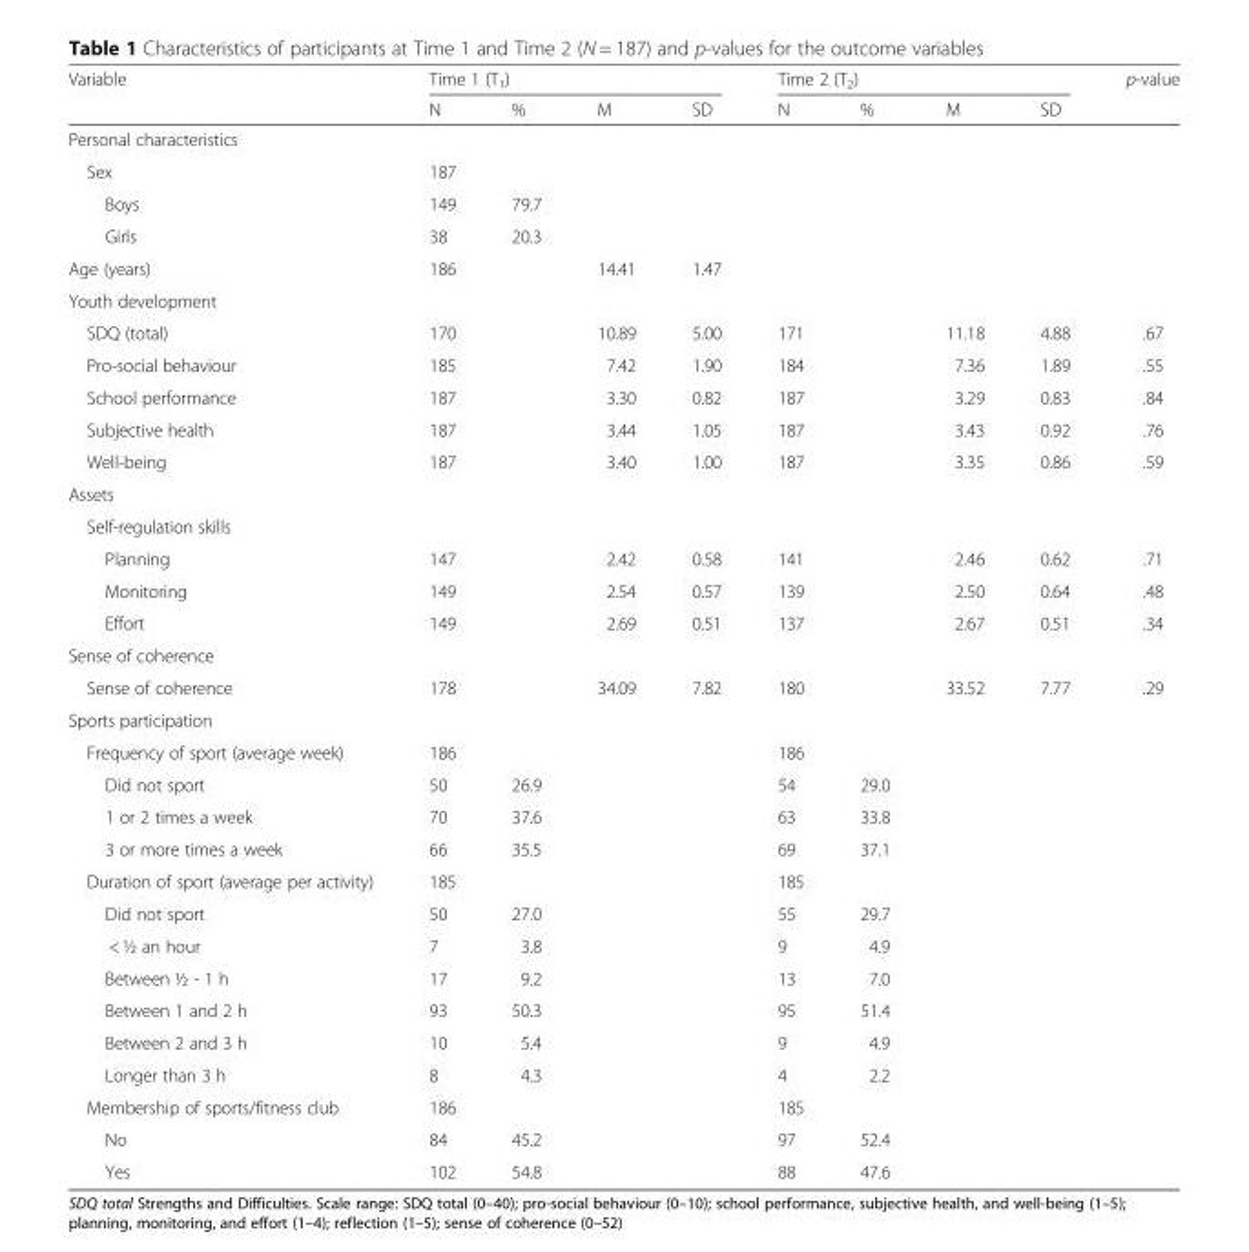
<table><thead><tr><td rowspan="2">Variable</td><td colspan="4">Time 1 (T<sub>1</sub>)</td><td colspan="4">Time 2 (T<sub>2</sub>)</td><td rowspan="2">p-value</td></tr><tr><td>N</td><td>%</td><td>M</td><td>SD</td><td>N</td><td>%</td><td>M</td><td>SD</td></tr></thead><tbody><tr><td colspan="10">Personal characteristics</td></tr><tr><td>Sex</td><td>187</td><td></td><td></td><td></td><td></td><td></td><td></td><td></td><td></td></tr><tr><td>Boys</td><td>149</td><td>79.7</td><td></td><td></td><td></td><td></td><td></td><td></td><td></td></tr><tr><td>Girls</td><td>38</td><td>20.3</td><td></td><td></td><td></td><td></td><td></td><td></td><td></td></tr><tr><td>Age (years)</td><td>186</td><td></td><td>14.41</td><td>1.47</td><td></td><td></td><td></td><td></td><td></td></tr><tr><td colspan="10">Youth development</td></tr><tr><td>SDQ (total)</td><td>170</td><td></td><td>10.89</td><td>5.00</td><td>171</td><td></td><td>11.18</td><td>4.88</td><td>.67</td></tr><tr><td>Pro-social behaviour</td><td>185</td><td></td><td>7.42</td><td>1.90</td><td>184</td><td></td><td>7.36</td><td>1.89</td><td>.55</td></tr><tr><td>School performance</td><td>187</td><td></td><td>3.30</td><td>0.82</td><td>187</td><td></td><td>3.29</td><td>0.83</td><td>.84</td></tr><tr><td>Subjective health</td><td>187</td><td></td><td>3.44</td><td>1.05</td><td>187</td><td></td><td>3.43</td><td>0.92</td><td>.76</td></tr><tr><td>Well-being</td><td>187</td><td></td><td>3.40</td><td>1.00</td><td>187</td><td></td><td>3.35</td><td>0.86</td><td>.59</td></tr><tr><td colspan="10">Assets</td></tr><tr><td colspan="10">Self-regulation skills</td></tr><tr><td>Planning</td><td>147</td><td></td><td>2.42</td><td>0.58</td><td>141</td><td></td><td>2.46</td><td>0.62</td><td>.71</td></tr><tr><td>Monitoring</td><td>149</td><td></td><td>2.54</td><td>0.57</td><td>139</td><td></td><td>2.50</td><td>0.64</td><td>.48</td></tr><tr><td>Effort</td><td>149</td><td></td><td>2.69</td><td>0.51</td><td>137</td><td></td><td>2.67</td><td>0.51</td><td>.34</td></tr><tr><td colspan="10">Sense of coherence</td></tr><tr><td>Sense of coherence</td><td>178</td><td></td><td>34.09</td><td>7.82</td><td>180</td><td></td><td>33.52</td><td>7.77</td><td>.29</td></tr><tr><td colspan="10">Sports participation</td></tr><tr><td>Frequency of sport (average week)</td><td>186</td><td></td><td></td><td></td><td>186</td><td></td><td></td><td></td><td></td></tr><tr><td>Did not sport</td><td>50</td><td>26.9</td><td></td><td></td><td>54</td><td>29.0</td><td></td><td></td><td></td></tr><tr><td>1 or 2 times a week</td><td>70</td><td>37.6</td><td></td><td></td><td>63</td><td>33.8</td><td></td><td></td><td></td></tr><tr><td>3 or more times a week</td><td>66</td><td>35.5</td><td></td><td></td><td>69</td><td>37.1</td><td></td><td></td><td></td></tr><tr><td>Duration of sport (average per activity)</td><td>185</td><td></td><td></td><td></td><td>185</td><td></td><td></td><td></td><td></td></tr><tr><td>Did not sport</td><td>50</td><td>27.0</td><td></td><td></td><td>55</td><td>29.7</td><td></td><td></td><td></td></tr><tr><td>&lt; ½ an hour</td><td>7</td><td>3.8</td><td></td><td></td><td>9</td><td>4.9</td><td></td><td></td><td></td></tr><tr><td>Between ½ - 1 h</td><td>17</td><td>9.2</td><td></td><td></td><td>13</td><td>7.0</td><td></td><td></td><td></td></tr><tr><td>Between 1 and 2 h</td><td>93</td><td>50.3</td><td></td><td></td><td>95</td><td>51.4</td><td></td><td></td><td></td></tr><tr><td>Between 2 and 3 h</td><td>10</td><td>5.4</td><td></td><td></td><td>9</td><td>4.9</td><td></td><td></td><td></td></tr><tr><td>Longer than 3 h</td><td>8</td><td>4.3</td><td></td><td></td><td>4</td><td>2.2</td><td></td><td></td><td></td></tr><tr><td>Membership of sports/fitness club</td><td>186</td><td></td><td></td><td></td><td>185</td><td></td><td></td><td></td><td></td></tr><tr><td>No</td><td>84</td><td>45.2</td><td></td><td></td><td>97</td><td>52.4</td><td></td><td></td><td></td></tr><tr><td>Yes</td><td>102</td><td>54.8</td><td></td><td></td><td>88</td><td>47.6</td><td></td><td></td><td></td></tr></tbody></table>